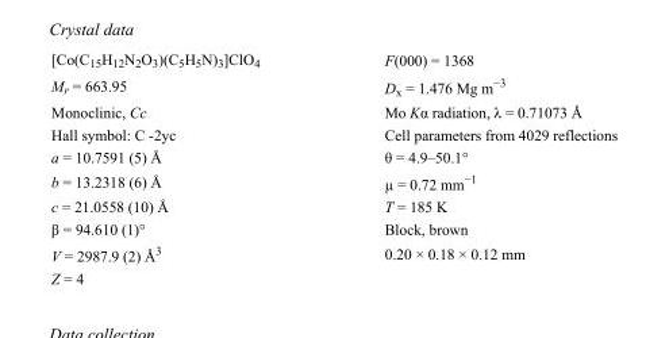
<table><tbody><tr><td>[Co(C<sub>15</sub>H<sub>12</sub>N<sub>2</sub>O<sub>3</sub>)(C<sub>5</sub>H<sub>5</sub>N)<sub>3</sub>]ClO<sub>4</sub></td><td>F(000) = 1368</td></tr><tr><td>M<sub>r</sub> = 663.95</td><td>D<sub>x</sub> = 1.476 Mg m<sup>−3</sup></td></tr><tr><td>Monoclinic, Cc</td><td>Mo Kα radiation, λ = 0.71073 Å</td></tr><tr><td>Hall symbol: C -2yc</td><td>Cell parameters from 4029 reflections</td></tr><tr><td>a = 10.7591 (5) Å</td><td>θ = 4.9–50.1°</td></tr><tr><td>b = 13.2318 (6) Å</td><td>µ = 0.72 mm<sup>−1</sup></td></tr><tr><td>c = 21.0558 (10) Å</td><td>T = 185 K</td></tr><tr><td>β = 94.610 (1)°</td><td>Block, brown</td></tr><tr><td>V = 2987.9 (2) Å<sup>3</sup></td><td>0.20 × 0.18 × 0.12 mm</td></tr><tr><td>Z = 4</td><td></td></tr></tbody></table>